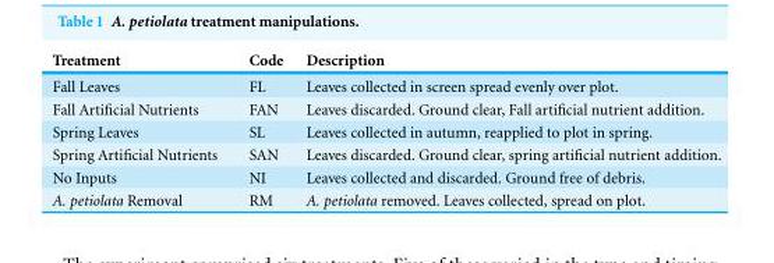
<table><thead><tr><td>Treatment</td><td>Code</td><td>Description</td></tr></thead><tbody><tr><td>Fall Leaves</td><td>FL</td><td>Leaves collected in screen spread evenly over plot.</td></tr><tr><td>Fall Artificial Nutrients</td><td>FAN</td><td>Leaves discarded. Ground clear, Fall artificial nutrient addition.</td></tr><tr><td>Spring Leaves</td><td>SL</td><td>Leaves collected in autumn, reapplied to plot in spring.</td></tr><tr><td>Spring Artificial Nutrients</td><td>SAN</td><td>Leaves discarded. Ground clear, spring artificial nutrient addition.</td></tr><tr><td>No Inputs</td><td>NI</td><td>Leaves collected and discarded. Ground free of debris.</td></tr><tr><td>A. petiolata Removal</td><td>RM</td><td>A. petiolata removed. Leaves collected, spread on plot.</td></tr></tbody></table>